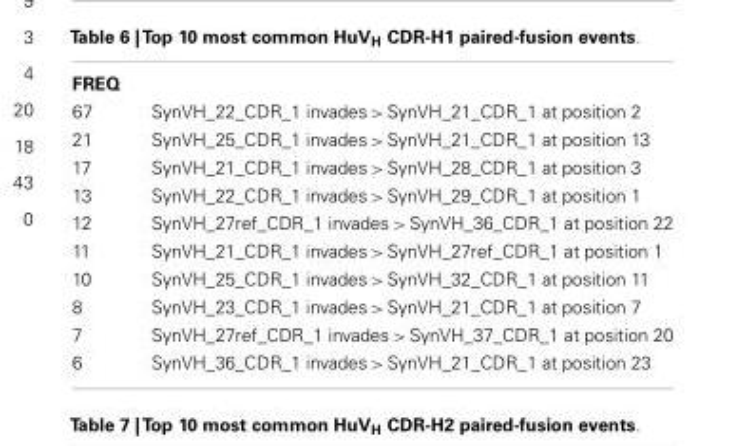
<table><tbody><tr><td colspan="2">FREQ</td></tr><tr><td>67</td><td>SynVH_22_CDR_1 invades &gt; SynVH_21_CDR_1 at position 2</td></tr><tr><td>21</td><td>SynVH_25_CDR_1 invades &gt; SynVH_21_CDR_1 at position 13</td></tr><tr><td>17</td><td>SynVH_21_CDR_1 invades &gt; SynVH_28_CDR_1 at position 3</td></tr><tr><td>13</td><td>SynVH_22_CDR_1 invades &gt; SynVH_29_CDR_1 at position 1</td></tr><tr><td>12</td><td>SynVH_27ref_CDR_1 invades &gt; SynVH_36_CDR_1 at position 22</td></tr><tr><td>11</td><td>SynVH_21_CDR_1 invades &gt; SynVH_27ref_CDR_1 at position 1</td></tr><tr><td>10</td><td>SynVH_25_CDR_1 invades &gt; SynVH_32_CDR_1 at position 11</td></tr><tr><td>8</td><td>SynVH_23_CDR_1 invades &gt; SynVH_21_CDR_1 at position 7</td></tr><tr><td>7</td><td>SynVH_27ref_CDR_1 invades &gt; SynVH_37_CDR_1 at position 20</td></tr><tr><td>6</td><td>SynVH_36_CDR_1 invades &gt; SynVH_21_CDR_1 at position 23</td></tr></tbody></table>